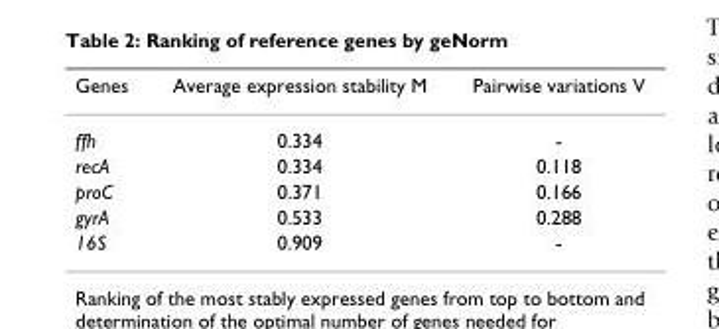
<table><thead><tr><td>Genes</td><td>Average expression stability M</td><td>Pairwise variations V</td></tr></thead><tbody><tr><td>ffh</td><td>0.334</td><td>-</td></tr><tr><td>recA</td><td>0.334</td><td>0.118</td></tr><tr><td>proC</td><td>0.371</td><td>0.166</td></tr><tr><td>gyrA</td><td>0.533</td><td>0.288</td></tr><tr><td>16S</td><td>0.909</td><td>-</td></tr></tbody></table>